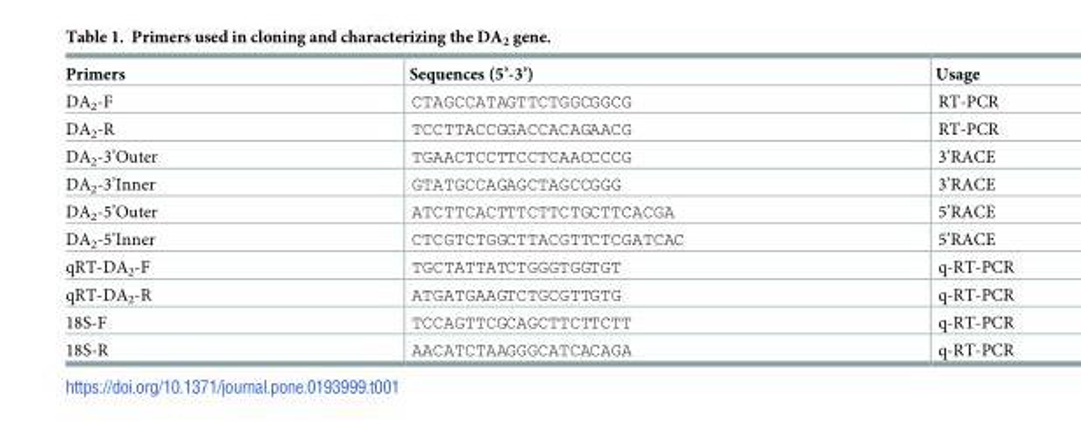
<table><thead><tr><td>Primers</td><td>Sequences (5’-3’)</td><td>Usage</td></tr></thead><tbody><tr><td>DA<sub>2</sub>-F</td><td>CTAGCCATAGTTCTGGCGGCG</td><td>RT-PCR</td></tr><tr><td>DA<sub>2</sub>-R</td><td>TCCTTACCGGACCACAGAACG</td><td>RT-PCR</td></tr><tr><td>DA<sub>2</sub>-3’Outer</td><td>TGAACTCCTTCCTCAACCCCG</td><td>3’RACE</td></tr><tr><td>DA<sub>2</sub>-3’Inner</td><td>GTATGCCAGAGCTAGCCGGG</td><td>3’RACE</td></tr><tr><td>DA<sub>2</sub>-5’Outer</td><td>ATCTTCACTTTCTTCTGCTTCACGA</td><td>5’RACE</td></tr><tr><td>DA<sub>2</sub>-5’Inner</td><td>CTCGTCTGGCTTACGTTCTCGATCAC</td><td>5’RACE</td></tr><tr><td>qRT-DA<sub>2</sub>-F</td><td>TGCTATTATCTGGGTGGTGT</td><td>q-RT-PCR</td></tr><tr><td>qRT-DA<sub>2</sub>-R</td><td>ATGATGAAGTCTGCGTTGTG</td><td>q-RT-PCR</td></tr><tr><td>18S-F</td><td>TCCAGTTCGCAGCTTCTTCTT</td><td>q-RT-PCR</td></tr><tr><td>18S-R</td><td>AACATCTAAGGGCATCACAGA</td><td>q-RT-PCR</td></tr></tbody></table>